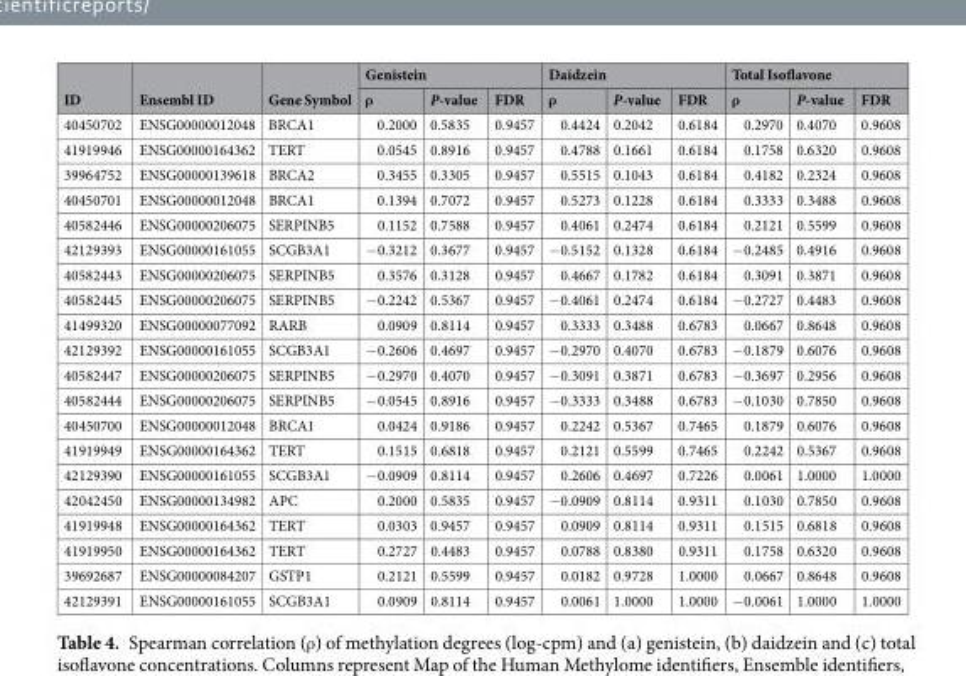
<table><thead><tr><td rowspan="2">ID</td><td rowspan="2">Ensembl ID</td><td rowspan="2">Gene Symbol</td><td colspan="3">Genistein</td><td colspan="3">Daidzein</td><td colspan="3">Total Isoflavone</td></tr><tr><td>ρ</td><td>P-value</td><td>FDR</td><td>ρ</td><td>P-value</td><td>FDR</td><td>ρ</td><td>P-value</td><td>FDR</td></tr></thead><tbody><tr><td>40450702</td><td>ENSG00000012048</td><td>BRCA1</td><td>0.2000</td><td>0.5835</td><td>0.9457</td><td>0.4424</td><td>0.2042</td><td>0.6184</td><td>0.2970</td><td>0.4070</td><td>0.9608</td></tr><tr><td>41919946</td><td>ENSG00000164362</td><td>TERT</td><td>0.0545</td><td>0.8916</td><td>0.9457</td><td>0.4788</td><td>0.1661</td><td>0.6184</td><td>0.1758</td><td>0.6320</td><td>0.9608</td></tr><tr><td>39964752</td><td>ENSG00000139618</td><td>BRCA2</td><td>0.3455</td><td>0.3305</td><td>0.9457</td><td>0.5515</td><td>0.1043</td><td>0.6184</td><td>0.4182</td><td>0.2324</td><td>0.9608</td></tr><tr><td>40450701</td><td>ENSG00000012048</td><td>BRCA1</td><td>0.1394</td><td>0.7072</td><td>0.9457</td><td>0.5273</td><td>0.1228</td><td>0.6184</td><td>0.3333</td><td>0.3488</td><td>0.9608</td></tr><tr><td>40582446</td><td>ENSG00000206075</td><td>SERPINB5</td><td>0.1152</td><td>0.7588</td><td>0.9457</td><td>0.4061</td><td>0.2474</td><td>0.6184</td><td>0.2121</td><td>0.5599</td><td>0.9608</td></tr><tr><td>42129393</td><td>ENSG00000161055</td><td>SCGB3A1</td><td>−0.3212</td><td>0.3677</td><td>0.9457</td><td>−0.5152</td><td>0.1328</td><td>0.6184</td><td>−0.2485</td><td>0.4916</td><td>0.9608</td></tr><tr><td>40582443</td><td>ENSG00000206075</td><td>SERPINB5</td><td>0.3576</td><td>0.3128</td><td>0.9457</td><td>0.4667</td><td>0.1782</td><td>0.6184</td><td>0.3091</td><td>0.3871</td><td>0.9608</td></tr><tr><td>40582445</td><td>ENSG00000206075</td><td>SERPINB5</td><td>−0.2242</td><td>0.5367</td><td>0.9457</td><td>−0.4061</td><td>0.2474</td><td>0.6184</td><td>−0.2727</td><td>0.4483</td><td>0.9608</td></tr><tr><td>41499320</td><td>ENSG00000077092</td><td>RARB</td><td>0.0909</td><td>0.8114</td><td>0.9457</td><td>0.3333</td><td>0.3488</td><td>0.6783</td><td>0.0667</td><td>0.8648</td><td>0.9608</td></tr><tr><td>42129392</td><td>ENSG00000161055</td><td>SCGB3A1</td><td>−0.2606</td><td>0.4697</td><td>0.9457</td><td>−0.2970</td><td>0.4070</td><td>0.6783</td><td>−0.1879</td><td>0.6076</td><td>0.9608</td></tr><tr><td>40582447</td><td>ENSG00000206075</td><td>SERPINB5</td><td>−0.2970</td><td>0.4070</td><td>0.9457</td><td>−0.3091</td><td>0.3871</td><td>0.6783</td><td>−0.3697</td><td>0.2956</td><td>0.9608</td></tr><tr><td>40582444</td><td>ENSG00000206075</td><td>SERPINB5</td><td>−0.0545</td><td>0.8916</td><td>0.9457</td><td>−0.3333</td><td>0.3488</td><td>0.6783</td><td>−0.1030</td><td>0.7850</td><td>0.9608</td></tr><tr><td>40450700</td><td>ENSG00000012048</td><td>BRCA1</td><td>0.0424</td><td>0.9186</td><td>0.9457</td><td>0.2242</td><td>0.5367</td><td>0.7465</td><td>0.1879</td><td>0.6076</td><td>0.9608</td></tr><tr><td>41919949</td><td>ENSG00000164362</td><td>TERT</td><td>0.1515</td><td>0.6818</td><td>0.9457</td><td>0.2121</td><td>0.5599</td><td>0.7465</td><td>0.2242</td><td>0.5367</td><td>0.9608</td></tr><tr><td>42129390</td><td>ENSG00000161055</td><td>SCGB3A1</td><td>−0.0909</td><td>0.8114</td><td>0.9457</td><td>0.2606</td><td>0.4697</td><td>0.7226</td><td>0.0061</td><td>1.0000</td><td>1.0000</td></tr><tr><td>42042450</td><td>ENSG00000134982</td><td>APC</td><td>0.2000</td><td>0.5835</td><td>0.9457</td><td>−0.0909</td><td>0.8114</td><td>0.9311</td><td>0.1030</td><td>0.7850</td><td>0.9608</td></tr><tr><td>41919948</td><td>ENSG00000164362</td><td>TERT</td><td>0.0303</td><td>0.9457</td><td>0.9457</td><td>0.0909</td><td>0.8114</td><td>0.9311</td><td>0.1515</td><td>0.6818</td><td>0.9608</td></tr><tr><td>41919950</td><td>ENSG00000164362</td><td>TERT</td><td>0.2727</td><td>0.4483</td><td>0.9457</td><td>0.0788</td><td>0.8380</td><td>0.9311</td><td>0.1758</td><td>0.6320</td><td>0.9608</td></tr><tr><td>39692687</td><td>ENSG00000084207</td><td>GSTP1</td><td>0.2121</td><td>0.5599</td><td>0.9457</td><td>0.0182</td><td>0.9728</td><td>1.0000</td><td>0.0667</td><td>0.8648</td><td>0.9608</td></tr><tr><td>42129391</td><td>ENSG00000161055</td><td>SCGB3A1</td><td>0.0909</td><td>0.8114</td><td>0.9457</td><td>0.0061</td><td>1.0000</td><td>1.0000</td><td>−0.0061</td><td>1.0000</td><td>1.0000</td></tr></tbody></table>